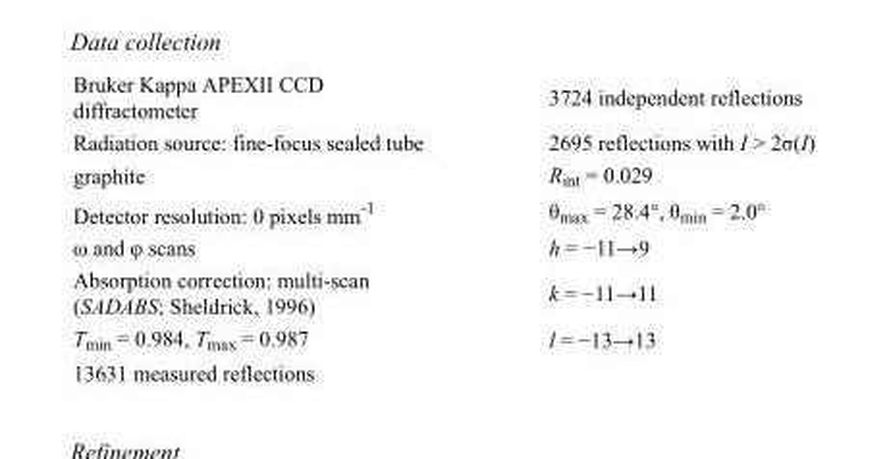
<table><tbody><tr><td>Bruker Kappa APEXII CCD diffractometer</td><td>3724 independent reflections</td></tr><tr><td>Radiation source: fine-focus sealed tube</td><td>2695 reflections with I &gt; 2σ(I)</td></tr><tr><td>graphite</td><td>R<sub>int</sub> = 0.029</td></tr><tr><td>Detector resolution: 0 pixels mm<sup>-1</sup></td><td>θ<sub>max</sub> = 28.4°, θ<sub>min</sub> = 2.0°</td></tr><tr><td>ω and φ scans</td><td>h = −11→9</td></tr><tr><td>Absorption correction: multi-scan (SADABS; Sheldrick, 1996)</td><td>k = −11→11</td></tr><tr><td>T<sub>min</sub> = 0.984, T<sub>max</sub> = 0.987</td><td>l = −13→13</td></tr><tr><td>13631 measured reflections</td><td></td></tr></tbody></table>